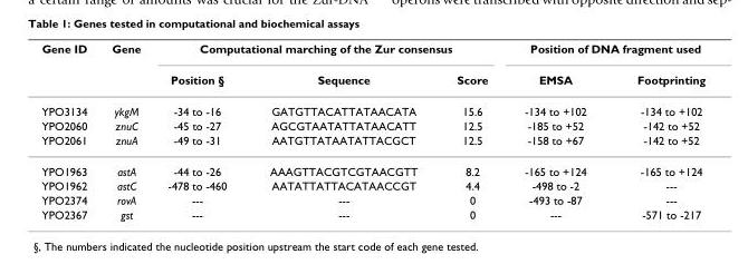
<table><thead><tr><td rowspan="2">Gene ID</td><td rowspan="2">Gene</td><td colspan="3">Computational marching of the Zur consensus</td><td colspan="2">Position of DNA fragment used</td></tr><tr><td>Position §</td><td>Sequence</td><td>Score</td><td>EMSA</td><td>Footprinting</td></tr></thead><tbody><tr><td>YPO3134</td><td>ykgM</td><td>-34 to -16</td><td>GATGTTACATTATAACATA</td><td>15.6</td><td>-134 to +102</td><td>-134 to +102</td></tr><tr><td>YPO2060</td><td>znuC</td><td>-45 to -27</td><td>AGCGTAATATTATAACATT</td><td>12.5</td><td>-185 to +52</td><td>-142 to +52</td></tr><tr><td>YPO2061</td><td>znuA</td><td>-49 to -31</td><td>AATGTTATAATATTACGCT</td><td>12.5</td><td>-158 to +67</td><td>-142 to +52</td></tr><tr><td>YPO1963</td><td>astA</td><td>-44 to -26</td><td>AAAGTTACGTCGTAACGTT</td><td>8.2</td><td>-165 to +124</td><td>-165 to +124</td></tr><tr><td>YPO1962</td><td>astC</td><td>-478 to -460</td><td>AATATTATTACATAACCGT</td><td>4.4</td><td>-498 to -2</td><td>---</td></tr><tr><td>YPO2374</td><td>rovA</td><td>---</td><td>---</td><td>0</td><td>-493 to -87</td><td>---</td></tr><tr><td>YPO2367</td><td>gst</td><td>---</td><td>---</td><td>0</td><td>---</td><td>-571 to -217</td></tr></tbody></table>